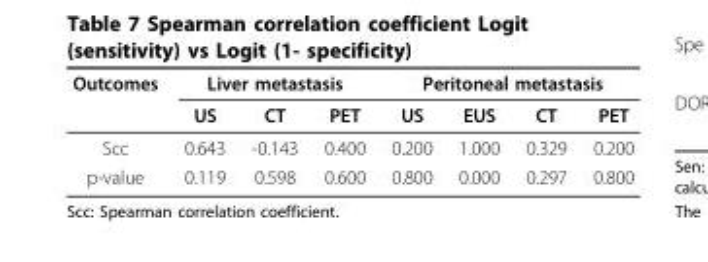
<table><thead><tr><td rowspan="2">Outcomes</td><td colspan="3">Liver metastasis</td><td colspan="4">Peritoneal metastasis</td></tr><tr><td>US</td><td>CT</td><td>PET</td><td>US</td><td>EUS</td><td>CT</td><td>PET</td></tr></thead><tbody><tr><td>Scc</td><td>0.643</td><td>-0.143</td><td>0.400</td><td>0.200</td><td>1.000</td><td>0.329</td><td>0.200</td></tr><tr><td>p-value</td><td>0.119</td><td>0.598</td><td>0.600</td><td>0.800</td><td>0.000</td><td>0.297</td><td>0.800</td></tr></tbody></table>